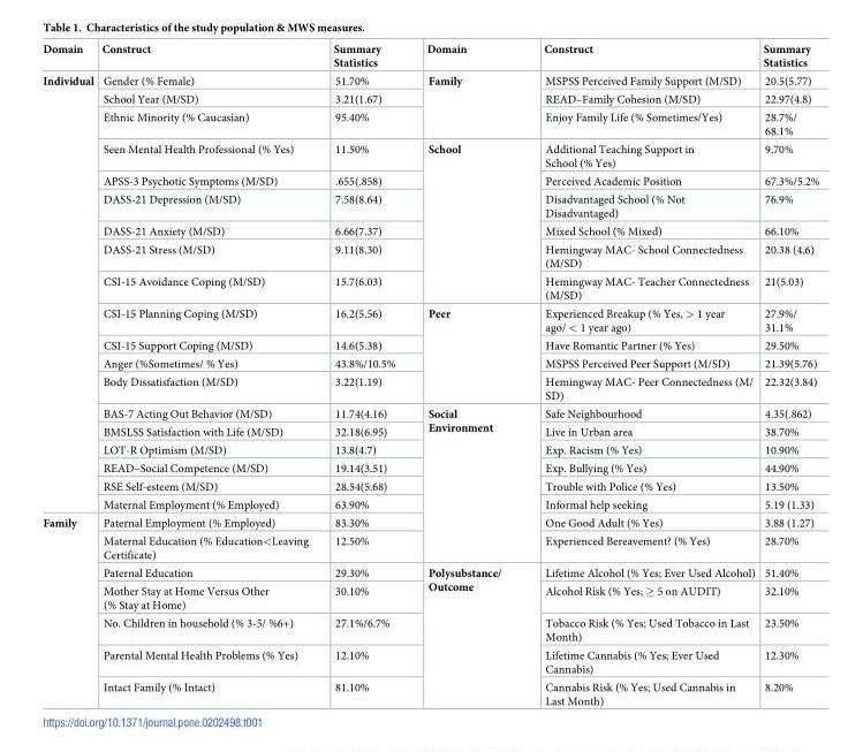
<table><thead><tr><td>Domain</td><td>Construct</td><td>Summary Statistics</td><td>Domain</td><td>Construct</td><td>Summary Statistics</td></tr></thead><tbody><tr><td rowspan="19">Individual</td><td>Gender (% Female)</td><td>51.70%</td><td rowspan="3">Family</td><td>MSPSS Perceived Family Support (M/SD)</td><td>20.5(5.77)</td></tr><tr><td>School Year (M/SD)</td><td>3.21(1.67)</td><td>READ–Family Cohesion (M/SD)</td><td>22.97(4.8)</td></tr><tr><td>Ethnic Minority (% Caucasian)</td><td>95.40%</td><td>Enjoy Family Life (% Sometimes/Yes)</td><td>28.7%/ 68.1%</td></tr><tr><td>Seen Mental Health Professional (% Yes)</td><td>11.50%</td><td rowspan="6">School</td><td>Additional Teaching Support in School (% Yes)</td><td>9.70%</td></tr><tr><td>APSS-3 Psychotic Symptoms (M/SD)</td><td>.655(.858)</td><td>Perceived Academic Position</td><td>67.3%/5.2%</td></tr><tr><td>DASS-21 Depression (M/SD)</td><td>7.58(8.64)</td><td>Disadvantaged School (% Not Disadvantaged)</td><td>76.9%</td></tr><tr><td>DASS-21 Anxiety (M/SD)</td><td>6.66(7.37)</td><td>Mixed School (% Mixed)</td><td>66.10%</td></tr><tr><td>DASS-21 Stress (M/SD)</td><td>9.11(8.30)</td><td>Hemingway MAC- School Connectedness (M/SD)</td><td>20.38 (4.6)</td></tr><tr><td>CSI-15 Avoidance Coping (M/SD)</td><td>15.7(6.03)</td><td>Hemingway MAC- Teacher Connectedness (M/SD)</td><td>21(5.03)</td></tr><tr><td>CSI-15 Planning Coping (M/SD)</td><td>16.2(5.56)</td><td rowspan="4">Peer</td><td>Experienced Breakup (% Yes, &gt; 1 year ago/ &lt; 1 year ago)</td><td>27.9%/ 31.1%</td></tr><tr><td>CSI-15 Support Coping (M/SD)</td><td>14.6(5.38)</td><td>Have Romantic Partner (% Yes)</td><td>29.50%</td></tr><tr><td>Anger (%Sometimes/ % Yes)</td><td>43.8%/10.5%</td><td>MSPSS Perceived Peer Support (M/SD)</td><td>21.39(5.76)</td></tr><tr><td>Body Dissatisfaction (M/SD)</td><td>3.22(1.19)</td><td>Hemingway MAC- Peer Connectedness (M/ SD)</td><td>22.32(3.84)</td></tr><tr><td>BAS-7 Acting Out Behavior (M/SD)</td><td>11.74(4.16)</td><td rowspan="8">Social Environment</td><td>Safe Neighbourhood</td><td>4.35(.862)</td></tr><tr><td>BMSLSS Satisfaction with Life (M/SD)</td><td>32.18(6.95)</td><td>Live in Urban area</td><td>38.70%</td></tr><tr><td>LOT-R Optimism (M/SD)</td><td>13.8(4.7)</td><td>Exp. Racism (% Yes)</td><td>10.90%</td></tr><tr><td>READ–Social Competence (M/SD)</td><td>19.14(3.51)</td><td>Exp. Bullying (% Yes)</td><td>44.90%</td></tr><tr><td>RSE Self-esteem (M/SD)</td><td>28.54(5.68)</td><td>Trouble with Police (% Yes)</td><td>13.50%</td></tr><tr><td>Maternal Employment (% Employed)</td><td>63.90%</td><td>Informal help seeking</td><td>5.19 (1.33)</td></tr><tr><td rowspan="7">Family</td><td>Paternal Employment (% Employed)</td><td>83.30%</td><td>One Good Adult (% Yes)</td><td>3.88 (1.27)</td></tr><tr><td>Maternal Education (% Education&lt;Leaving Certificate)</td><td>12.50%</td><td>Experienced Bereavement? (% Yes)</td><td>28.70%</td></tr><tr><td>Paternal Education</td><td>29.30%</td><td rowspan="5">Polysubstance/ Outcome</td><td>Lifetime Alcohol (% Yes; Ever Used Alcohol)</td><td>51.40%</td></tr><tr><td>Mother Stay at Home Versus Other (% Stay at Home)</td><td>30.10%</td><td>Alcohol Risk (% Yes; ≥ 5 on AUDIT)</td><td>32.10%</td></tr><tr><td>No. Children in household (% 3-5/ %6+)</td><td>27.1%/6.7%</td><td>Tobacco Risk (% Yes; Used Tobacco in Last Month)</td><td>23.50%</td></tr><tr><td>Parental Mental Health Problems (% Yes)</td><td>12.10%</td><td>Lifetime Cannabis (% Yes; Ever Used Cannabis)</td><td>12.30%</td></tr><tr><td>Intact Family (% Intact)</td><td>81.10%</td><td>Cannabis Risk (% Yes; Used Cannabis in Last Month)</td><td>8.20%</td></tr></tbody></table>